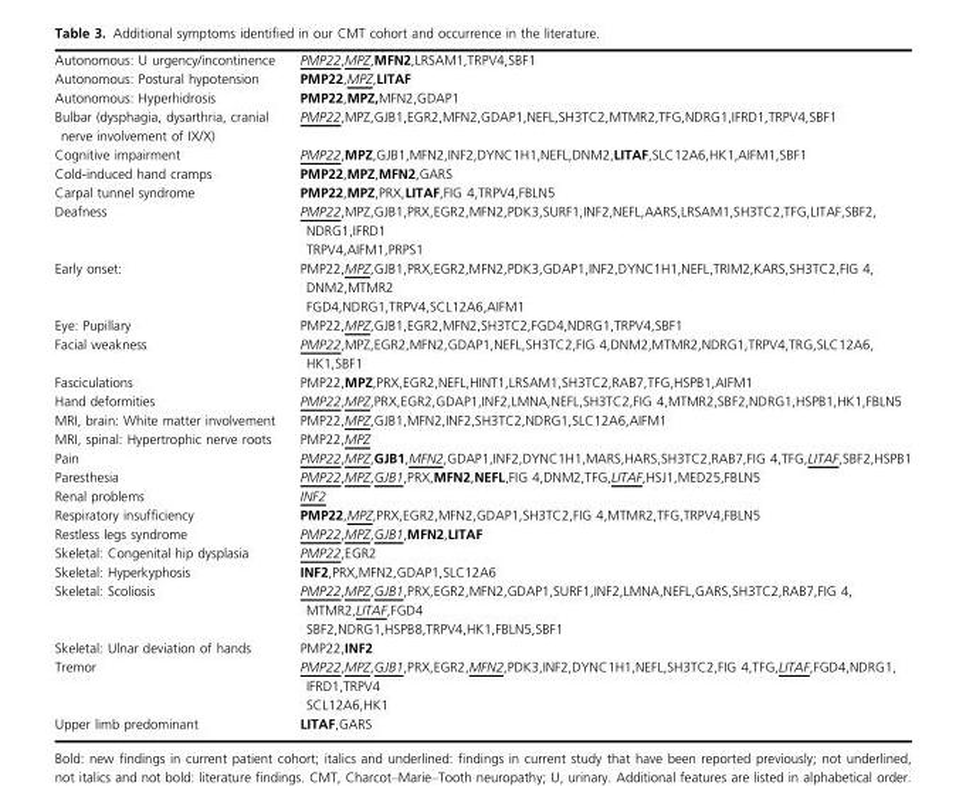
<table><tbody><tr><td>Autonomous: U urgency/incontinence</td><td>PMP22,MPZ,MFN2,LRSAM1,TRPV4,SBF1</td></tr><tr><td>Autonomous: Postural hypotension</td><td>PMP22,MPZ,LITAF</td></tr><tr><td>Autonomous: Hyperhidrosis</td><td>PMP22,MPZ,MFN2,GDAP1</td></tr><tr><td>Bulbar (dysphagia, dysarthria, cranial nerve involvement of IX/X)</td><td>PMP22,MPZ,GJB1,EGR2,MFN2,GDAP1,NEFL,SH3TC2,MTMR2,TFG,NDRG1,IFRD1,TRPV4,SBF1</td></tr><tr><td>Cognitive impairment</td><td>PMP22,MPZ,GJB1,MFN2,INF2,DYNC1H1,NEFL,DNM2,LITAF,SLC12A6,HK1,AIFM1,SBF1</td></tr><tr><td>Cold-induced hand cramps</td><td>PMP22,MPZ,MFN2,GARS</td></tr><tr><td>Carpal tunnel syndrome</td><td>PMP22,MPZ,PRX,LITAF,FIG 4,TRPV4,FBLN5</td></tr><tr><td>Deafness</td><td>PMP22,MPZ,GJB1,PRX,EGR2,MFN2,PDK3,SURF1,INF2,NEFL,AARS,LRSAM1,SH3TC2,TFG,LITAF,SBF2, NDRG1,IFRD1 TRPV4,AIFM1,PRPS1</td></tr><tr><td>Early onset:</td><td>PMP22,MPZ,GJB1,PRX,EGR2,MFN2,PDK3,GDAP1,INF2,DYNC1H1,NEFL,TRIM2,KARS,SH3TC2,FIG 4, DNM2,MTMR2 FGD4,NDRG1,TRPV4,SCL12A6,AIFM1</td></tr><tr><td>Eye: Pupillary</td><td>PMP22,MPZ,GJB1,EGR2,MFN2,SH3TC2,FGD4,NDRG1,TRPV4,SBF1</td></tr><tr><td>Facial weakness</td><td>PMP22,MPZ,EGR2,MFN2,GDAP1,NEFL,SH3TC2,FIG 4,DNM2,MTMR2,NDRG1,TRPV4,TRG,SLC12A6, HK1,SBF1</td></tr><tr><td>Fasciculations</td><td>PMP22,MPZ,PRX,EGR2,NEFL,HINT1,LRSAM1,SH3TC2,RAB7,TFG,HSPB1,AIFM1</td></tr><tr><td>Hand deformities</td><td>PMP22,MPZ,PRX,EGR2,GDAP1,INF2,LMNA,NEFL,SH3TC2,FIG 4,MTMR2,SBF2,NDRG1,HSPB1,HK1,FBLN5</td></tr><tr><td>MRI, brain: White matter involvement</td><td>PMP22,MPZ,GJB1,MFN2,INF2,SH3TC2,NDRG1,SLC12A6,AIFM1</td></tr><tr><td>MRI, spinal: Hypertrophic nerve roots</td><td>PMP22,MPZ</td></tr><tr><td>Pain</td><td>PMP22,MPZ,GJB1,MFN2,GDAP1,INF2,DYNC1H1,MARS,HARS,SH3TC2,RAB7,FIG 4,TFG,LITAF,SBF2,HSPB1</td></tr><tr><td>Paresthesia</td><td>PMP22,MPZ,GJB1,PRX,MFN2,NEFL,FIG 4,DNM2,TFG,LITAF,HSJ1,MED25,FBLN5</td></tr><tr><td>Renal problems</td><td>INF2</td></tr><tr><td>Respiratory insufficiency</td><td>PMP22,MPZ,PRX,EGR2,MFN2,GDAP1,SH3TC2,FIG 4,MTMR2,TFG,TRPV4,FBLN5</td></tr><tr><td>Restless legs syndrome</td><td>PMP22,MPZ,GJB1,MFN2,LITAF</td></tr><tr><td>Skeletal: Congenital hip dysplasia</td><td>PMP22,EGR2</td></tr><tr><td>Skeletal: Hyperkyphosis</td><td>INF2,PRX,MFN2,GDAP1,SLC12A6</td></tr><tr><td>Skeletal: Scoliosis</td><td>PMP22,MPZ,GJB1,PRX,EGR2,MFN2,GDAP1,SURF1,INF2,LMNA,NEFL,GARS,SH3TC2,RAB7,FIG 4, MTMR2,LITAF,FGD4 SBF2,NDRG1,HSPB8,TRPV4,HK1,FBLN5,SBF1</td></tr><tr><td>Skeletal: Ulnar deviation of hands</td><td>PMP22,INF2</td></tr><tr><td>Tremor</td><td>PMP22,MPZ,GJB1,PRX,EGR2,MFN2,PDK3,INF2,DYNC1H1,NEFL,SH3TC2,FIG 4,TFG,LITAF,FGD4,NDRG1, IFRD1,TRPV4 SCL12A6,HK1</td></tr><tr><td>Upper limb predominant</td><td>LITAF,GARS</td></tr></tbody></table>